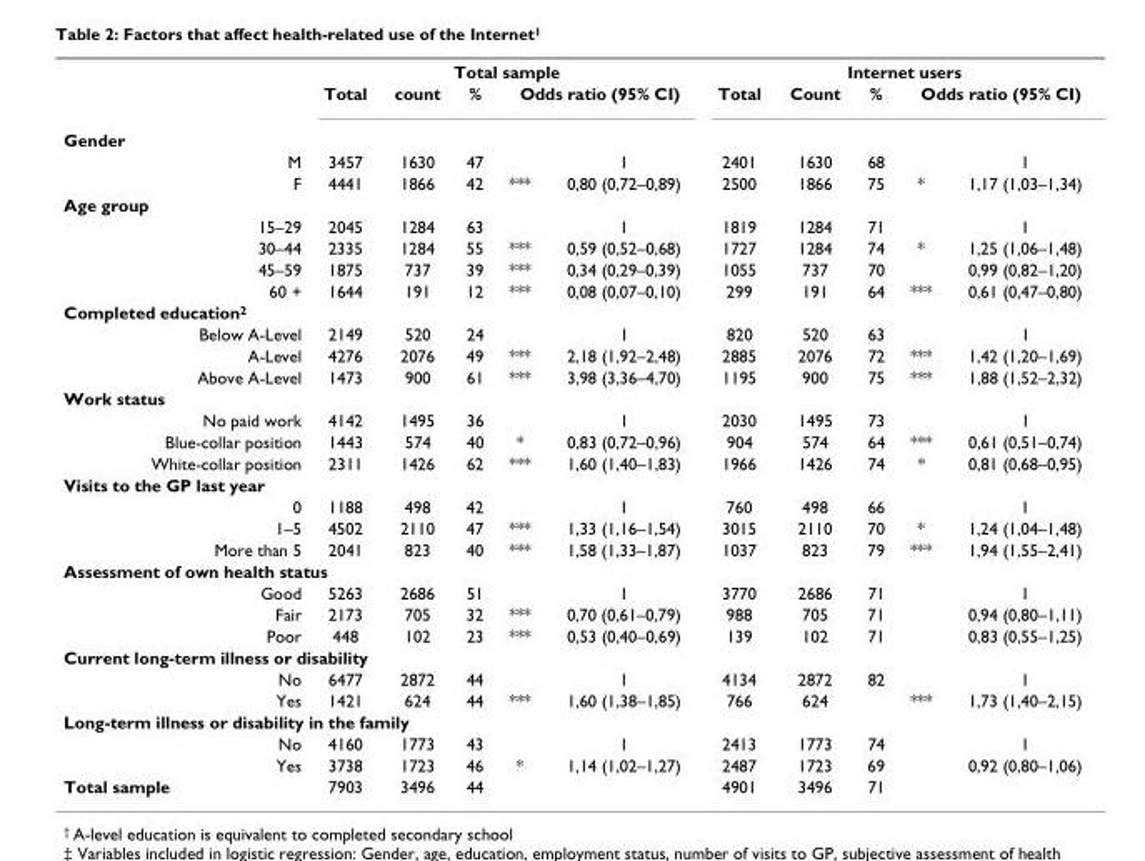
<table><thead><tr><td rowspan="3">Gender</td><td colspan="5">Total sample</td><td colspan="5">Internet users</td></tr><tr><td rowspan="2">Total</td><td rowspan="2">count</td><td rowspan="2">%</td><td colspan="2">Odds ratio (95% CI)</td><td rowspan="2">Total</td><td rowspan="2">Count</td><td rowspan="2">%</td><td colspan="2">Odds ratio (95% CI)</td></tr><tr><td></td><td></td><td></td><td></td></tr></thead><tbody><tr><td>M</td><td>3457</td><td>1630</td><td>47</td><td></td><td>1</td><td>2401</td><td>1630</td><td>68</td><td></td><td>1</td></tr><tr><td>F</td><td>4441</td><td>1866</td><td>42</td><td>***</td><td>0,80 (0,72–0,89)</td><td>2500</td><td>1866</td><td>75</td><td>*</td><td>1,17 (1,03–1,34)</td></tr><tr><td colspan="11">Age group</td></tr><tr><td>15–29</td><td>2045</td><td>1284</td><td>63</td><td></td><td>1</td><td>1819</td><td>1284</td><td>71</td><td></td><td>1</td></tr><tr><td>30–44</td><td>2335</td><td>1284</td><td>55</td><td>***</td><td>0,59 (0,52–0,68)</td><td>1727</td><td>1284</td><td>74</td><td>*</td><td>1,25 (1,06–1,48)</td></tr><tr><td>45–59</td><td>1875</td><td>737</td><td>39</td><td>***</td><td>0,34 (0,29–0,39)</td><td>1055</td><td>737</td><td>70</td><td></td><td>0,99 (0,82–1,20)</td></tr><tr><td>60 +</td><td>1644</td><td>191</td><td>12</td><td>***</td><td>0,08 (0,07–0,10)</td><td>299</td><td>191</td><td>64</td><td>***</td><td>0,61 (0,47–0,80)</td></tr><tr><td colspan="11">Completed education<sup>2</sup></td></tr><tr><td>Below A-Level</td><td>2149</td><td>520</td><td>24</td><td></td><td>1</td><td>820</td><td>520</td><td>63</td><td></td><td>1</td></tr><tr><td>A-Level</td><td>4276</td><td>2076</td><td>49</td><td>***</td><td>2,18 (1,92–2,48)</td><td>2885</td><td>2076</td><td>72</td><td>***</td><td>1,42 (1,20–1,69)</td></tr><tr><td>Above A-Level</td><td>1473</td><td>900</td><td>61</td><td>***</td><td>3,98 (3,36–4,70)</td><td>1195</td><td>900</td><td>75</td><td>***</td><td>1,88 (1,52–2,32)</td></tr><tr><td colspan="11">Work status</td></tr><tr><td>No paid work</td><td>4142</td><td>1495</td><td>36</td><td></td><td>1</td><td>2030</td><td>1495</td><td>73</td><td></td><td>1</td></tr><tr><td>Blue-collar position</td><td>1443</td><td>574</td><td>40</td><td>*</td><td>0,83 (0,72–0,96)</td><td>904</td><td>574</td><td>64</td><td>***</td><td>0,61 (0,51–0,74)</td></tr><tr><td>White-collar position</td><td>2311</td><td>1426</td><td>62</td><td>***</td><td>1,60 (1,40–1,83)</td><td>1966</td><td>1426</td><td>74</td><td>*</td><td>0,81 (0,68–0,95)</td></tr><tr><td colspan="11">Visits to the GP last year</td></tr><tr><td>0</td><td>1188</td><td>498</td><td>42</td><td></td><td>1</td><td>760</td><td>498</td><td>66</td><td></td><td>1</td></tr><tr><td>1–5</td><td>4502</td><td>2110</td><td>47</td><td>***</td><td>1,33 (1,16–1,54)</td><td>3015</td><td>2110</td><td>70</td><td>*</td><td>1,24 (1,04–1,48)</td></tr><tr><td>More than 5</td><td>2041</td><td>823</td><td>40</td><td>***</td><td>1,58 (1,33–1,87)</td><td>1037</td><td>823</td><td>79</td><td>***</td><td>1,94 (1,55–2,41)</td></tr><tr><td colspan="11">Assessment of own health status</td></tr><tr><td>Good</td><td>5263</td><td>2686</td><td>51</td><td></td><td>1</td><td>3770</td><td>2686</td><td>71</td><td></td><td>1</td></tr><tr><td>Fair</td><td>2173</td><td>705</td><td>32</td><td>***</td><td>0,70 (0,61–0,79)</td><td>988</td><td>705</td><td>71</td><td></td><td>0,94 (0,80–1,11)</td></tr><tr><td>Poor</td><td>448</td><td>102</td><td>23</td><td>***</td><td>0,53 (0,40–0,69)</td><td>139</td><td>102</td><td>71</td><td></td><td>0,83 (0,55–1,25)</td></tr><tr><td colspan="11">Current long-term illness or disability</td></tr><tr><td>No</td><td>6477</td><td>2872</td><td>44</td><td></td><td>1</td><td>4134</td><td>2872</td><td>82</td><td></td><td>1</td></tr><tr><td>Yes</td><td>1421</td><td>624</td><td>44</td><td>***</td><td>1,60 (1,38–1,85)</td><td>766</td><td>624</td><td></td><td>***</td><td>1,73 (1,40–2,15)</td></tr><tr><td colspan="11">Long-term illness or disability in the family</td></tr><tr><td>No</td><td>4160</td><td>1773</td><td>43</td><td></td><td>1</td><td>2413</td><td>1773</td><td>74</td><td></td><td>1</td></tr><tr><td>Yes</td><td>3738</td><td>1723</td><td>46</td><td>*</td><td>1,14 (1,02–1,27)</td><td>2487</td><td>1723</td><td>69</td><td></td><td>0,92 (0,80–1,06)</td></tr><tr><td>Total sample</td><td>7903</td><td>3496</td><td>44</td><td></td><td></td><td>4901</td><td>3496</td><td>71</td><td></td><td></td></tr></tbody></table>